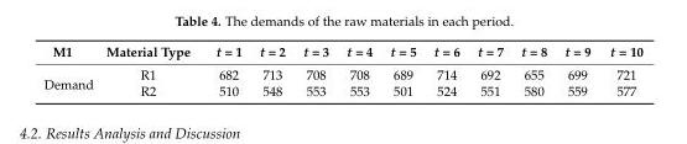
<table><thead><tr><td>M1</td><td>Material Type</td><td>t = 1</td><td>t = 2</td><td>t = 3</td><td>t = 4</td><td>t = 5</td><td>t = 6</td><td>t = 7</td><td>t = 8</td><td>t = 9</td><td>t = 10</td></tr></thead><tbody><tr><td rowspan="2">Demand</td><td>R1</td><td>682</td><td>713</td><td>708</td><td>708</td><td>689</td><td>714</td><td>692</td><td>655</td><td>699</td><td>721</td></tr><tr><td>R2</td><td>510</td><td>548</td><td>553</td><td>553</td><td>501</td><td>524</td><td>551</td><td>580</td><td>559</td><td>577</td></tr></tbody></table>